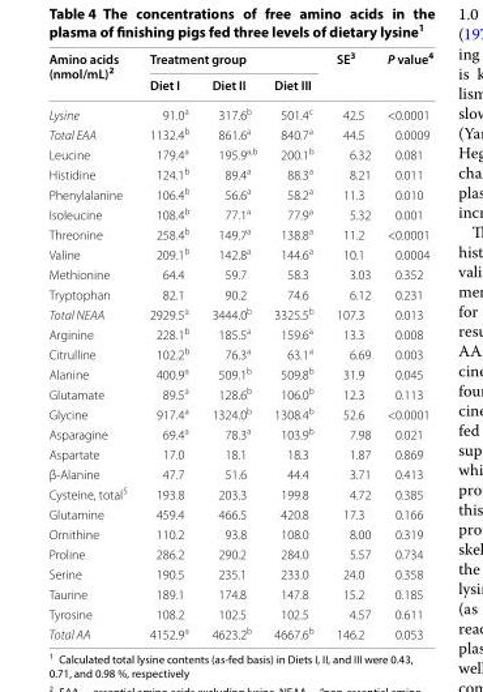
<table><thead><tr><td rowspan="2">Amino acids (nmol/mL)<sup>2</sup></td><td colspan="3">Treatment group</td><td rowspan="2">SE<sup>3</sup></td><td rowspan="2">P value<sup>4</sup></td></tr><tr><td>Diet I</td><td>Diet II</td><td>Diet III</td></tr></thead><tbody><tr><td>Lysine</td><td>91.0<sup>a</sup></td><td>317.6<sup>b</sup></td><td>501.4<sup>c</sup></td><td>42.5</td><td>&lt;0.0001</td></tr><tr><td>Total EAA</td><td>1132.4<sup>b</sup></td><td>861.6<sup>a</sup></td><td>840.7<sup>a</sup></td><td>44.5</td><td>0.0009</td></tr><tr><td>Leucine</td><td>179.4<sup>a</sup></td><td>195.9<sup>a,b</sup></td><td>200.1<sup>b</sup></td><td>6.32</td><td>0.081</td></tr><tr><td>Histidine</td><td>124.1<sup>b</sup></td><td>89.4<sup>a</sup></td><td>88.3<sup>a</sup></td><td>8.21</td><td>0.011</td></tr><tr><td>Phenylalanine</td><td>106.4<sup>b</sup></td><td>56.6<sup>a</sup></td><td>58.2<sup>a</sup></td><td>11.3</td><td>0.010</td></tr><tr><td>Isoleucine</td><td>108.4<sup>b</sup></td><td>77.1<sup>a</sup></td><td>77.9<sup>a</sup></td><td>5.32</td><td>0.001</td></tr><tr><td>Threonine</td><td>258.4<sup>b</sup></td><td>149.7<sup>a</sup></td><td>138.8<sup>a</sup></td><td>11.2</td><td>&lt;0.0001</td></tr><tr><td>Valine</td><td>209.1<sup>b</sup></td><td>142.8<sup>a</sup></td><td>144.6<sup>a</sup></td><td>10.1</td><td>0.0004</td></tr><tr><td>Methionine</td><td>64.4</td><td>59.7</td><td>58.3</td><td>3.03</td><td>0.352</td></tr><tr><td>Tryptophan</td><td>82.1</td><td>90.2</td><td>74.6</td><td>6.12</td><td>0.231</td></tr><tr><td>Total NEAA</td><td>2929.5<sup>a</sup></td><td>3444.0<sup>b</sup></td><td>3325.5<sup>b</sup></td><td>107.3</td><td>0.013</td></tr><tr><td>Arginine</td><td>228.1<sup>b</sup></td><td>185.5<sup>a</sup></td><td>159.6<sup>a</sup></td><td>13.3</td><td>0.008</td></tr><tr><td>Citrulline</td><td>102.2<sup>b</sup></td><td>76.3<sup>a</sup></td><td>63.1<sup>a</sup></td><td>6.69</td><td>0.003</td></tr><tr><td>Alanine</td><td>400.9<sup>a</sup></td><td>509.1<sup>b</sup></td><td>509.8<sup>b</sup></td><td>31.9</td><td>0.045</td></tr><tr><td>Glutamate</td><td>89.5<sup>a</sup></td><td>128.6<sup>b</sup></td><td>106.0<sup>b</sup></td><td>12.3</td><td>0.113</td></tr><tr><td>Glycine</td><td>917.4<sup>a</sup></td><td>1324.0<sup>b</sup></td><td>1308.4<sup>b</sup></td><td>52.6</td><td>&lt;0.0001</td></tr><tr><td>Asparagine</td><td>69.4<sup>a</sup></td><td>78.3<sup>a</sup></td><td>103.9<sup>b</sup></td><td>7.98</td><td>0.021</td></tr><tr><td>Aspartate</td><td>17.0</td><td>18.1</td><td>18.3</td><td>1.87</td><td>0.869</td></tr><tr><td>β-Alanine</td><td>47.7</td><td>51.6</td><td>44.4</td><td>3.71</td><td>0.413</td></tr><tr><td>Cysteine, total<sup>5</sup></td><td>193.8</td><td>203.3</td><td>199.8</td><td>4.72</td><td>0.385</td></tr><tr><td>Glutamine</td><td>459.4</td><td>466.5</td><td>420.8</td><td>17.3</td><td>0.166</td></tr><tr><td>Ornithine</td><td>110.2</td><td>93.8</td><td>108.0</td><td>8.00</td><td>0.319</td></tr><tr><td>Proline</td><td>286.2</td><td>290.2</td><td>284.0</td><td>5.57</td><td>0.734</td></tr><tr><td>Serine</td><td>190.5</td><td>235.1</td><td>233.0</td><td>24.0</td><td>0.358</td></tr><tr><td>Taurine</td><td>189.1</td><td>174.8</td><td>147.8</td><td>15.2</td><td>0.185</td></tr><tr><td>Tyrosine</td><td>108.2</td><td>102.5</td><td>102.5</td><td>4.57</td><td>0.611</td></tr><tr><td>Total AA</td><td>4152.9<sup>a</sup></td><td>4623.2<sup>b</sup></td><td>4667.6<sup>b</sup></td><td>146.2</td><td>0.053</td></tr></tbody></table>